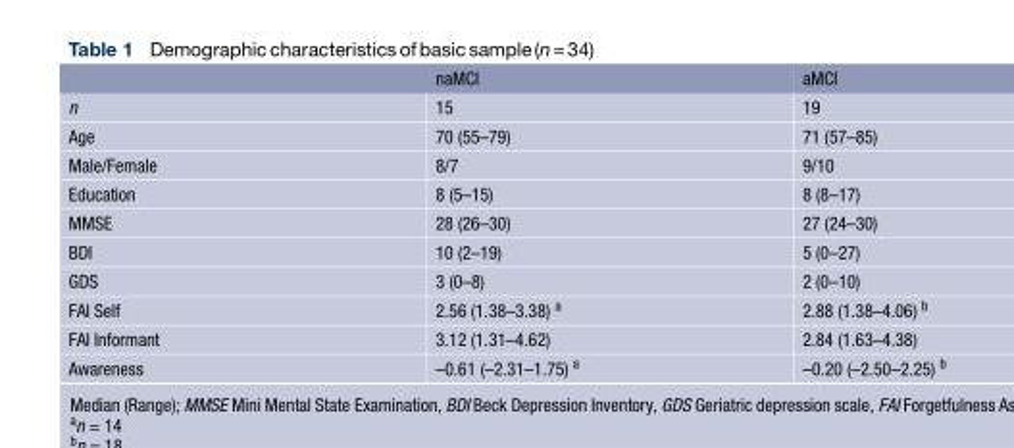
<table><thead><tr><td></td><td>naMCI</td><td>aMCI</td></tr></thead><tbody><tr><td>n</td><td>15</td><td>19</td></tr><tr><td>Age</td><td>70 (55–79)</td><td>71 (57–85)</td></tr><tr><td>Male/Female</td><td>8/7</td><td>9/10</td></tr><tr><td>Education</td><td>8 (5–15)</td><td>8 (8–17)</td></tr><tr><td>MMSE</td><td>28 (26–30)</td><td>27 (24–30)</td></tr><tr><td>BDI</td><td>10 (2–19)</td><td>5 (0–27)</td></tr><tr><td>GDS</td><td>3 (0–8)</td><td>2 (0–10)</td></tr><tr><td>FAI Self</td><td>2.56 (1.38–3.38) <sup>a</sup></td><td>2.88 (1.38–4.06) <sup>b</sup></td></tr><tr><td>FAI Informant</td><td>3.12 (1.31–4.62)</td><td>2.84 (1.63–4.38)</td></tr><tr><td>Awareness</td><td>–0.61 (–2.31–1.75) <sup>a</sup></td><td>–0.20 (–2.50–2.25) <sup>b</sup></td></tr></tbody></table>